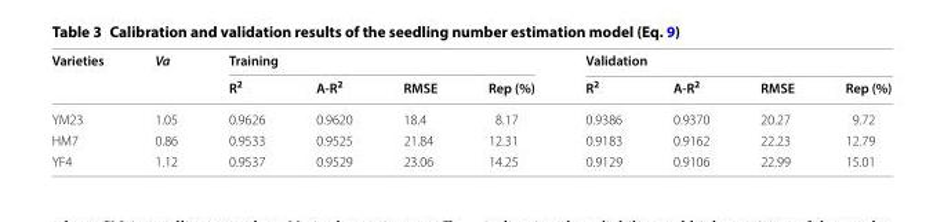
<table><thead><tr><td rowspan="2">Varieties</td><td rowspan="2">Va</td><td colspan="4">Training</td><td colspan="4">Validation</td></tr><tr><td>R<sup>2</sup></td><td>A‑R<sup>2</sup></td><td>RMSE</td><td>Rep (%)</td><td>R<sup>2</sup></td><td>A‑R<sup>2</sup></td><td>RMSE</td><td>Rep (%)</td></tr></thead><tbody><tr><td>YM23</td><td>1.05</td><td>0.9626</td><td>0.9620</td><td>18.4</td><td>8.17</td><td>0.9386</td><td>0.9370</td><td>20.27</td><td>9.72</td></tr><tr><td>HM7</td><td>0.86</td><td>0.9533</td><td>0.9525</td><td>21.84</td><td>12.31</td><td>0.9183</td><td>0.9162</td><td>22.23</td><td>12.79</td></tr><tr><td>YF4</td><td>1.12</td><td>0.9537</td><td>0.9529</td><td>23.06</td><td>14.25</td><td>0.9129</td><td>0.9106</td><td>22.99</td><td>15.01</td></tr></tbody></table>